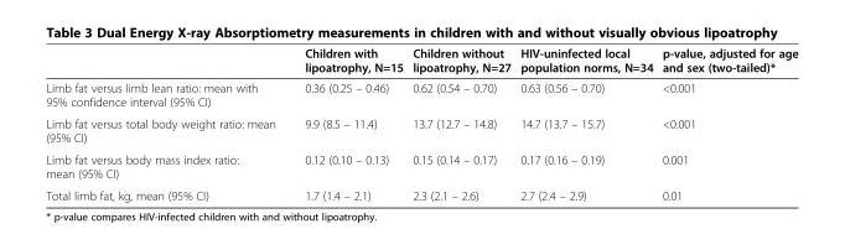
<table><thead><tr><td></td><td>Children with lipoatrophy, N=15</td><td>Children without lipoatrophy, N=27</td><td>HIV-uninfected local population norms, N=34</td><td>p-value, adjusted for age and sex (two-tailed)*</td></tr></thead><tbody><tr><td>Limb fat versus limb lean ratio: mean with 95% confidence interval (95% CI)</td><td>0.36 (0.25 – 0.46)</td><td>0.62 (0.54 – 0.70)</td><td>0.63 (0.56 – 0.70)</td><td>&lt;0.001</td></tr><tr><td>Limb fat versus total body weight ratio: mean (95% CI)</td><td>9.9 (8.5 – 11.4)</td><td>13.7 (12.7 – 14.8)</td><td>14.7 (13.7 – 15.7)</td><td>&lt;0.001</td></tr><tr><td>Limb fat versus body mass index ratio: mean (95% CI)</td><td>0.12 (0.10 – 0.13)</td><td>0.15 (0.14 – 0.17)</td><td>0.17 (0.16 – 0.19)</td><td>0.001</td></tr><tr><td>Total limb fat, kg, mean (95% CI)</td><td>1.7 (1.4 – 2.1)</td><td>2.3 (2.1 – 2.6)</td><td>2.7 (2.4 – 2.9)</td><td>0.01</td></tr></tbody></table>